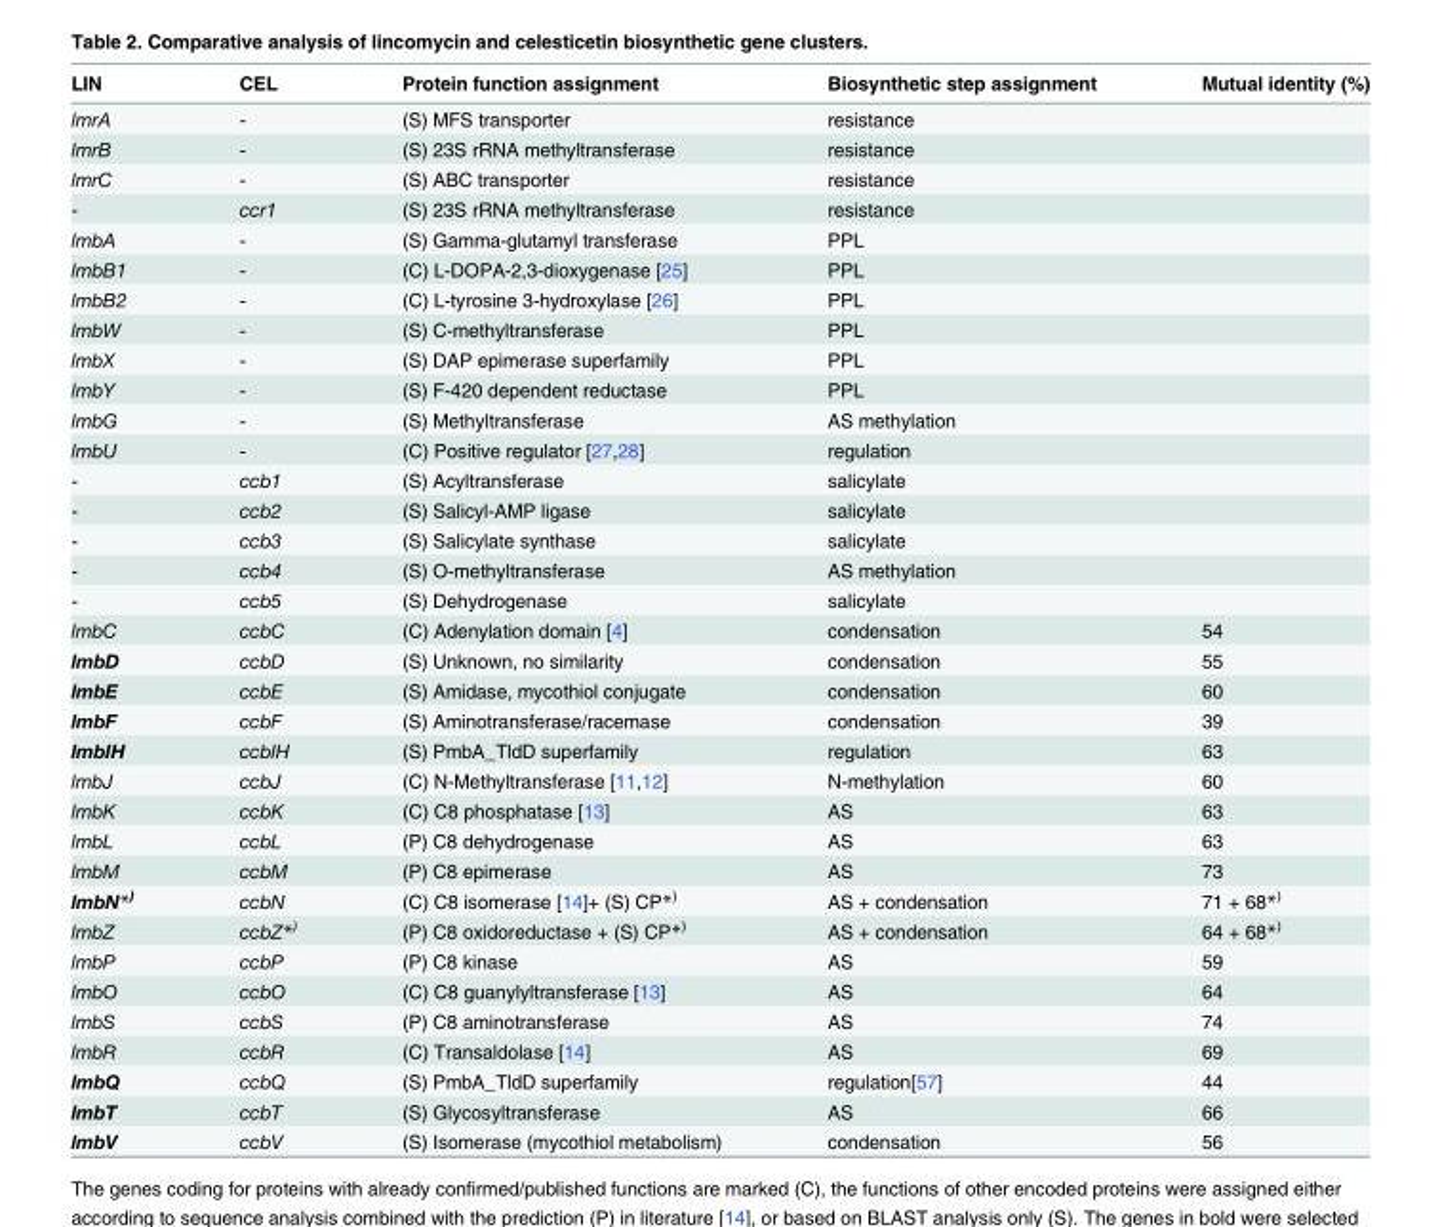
<table><thead><tr><td>LIN</td><td>CEL</td><td>Protein function assignment</td><td>Biosynthetic step assignment</td><td>Mutual identity (%)</td></tr></thead><tbody><tr><td>lmrA</td><td>-</td><td>(S) MFS transporter</td><td>resistance</td><td></td></tr><tr><td>lmrB</td><td>-</td><td>(S) 23S rRNA methyltransferase</td><td>resistance</td><td></td></tr><tr><td>lmrC</td><td>-</td><td>(S) ABC transporter</td><td>resistance</td><td></td></tr><tr><td>-</td><td>ccr1</td><td>(S) 23S rRNA methyltransferase</td><td>resistance</td><td></td></tr><tr><td>lmbA</td><td>-</td><td>(S) Gamma-glutamyl transferase</td><td>PPL</td><td></td></tr><tr><td>lmbB1</td><td>-</td><td>(C) L-DOPA-2,3-dioxygenase [25]</td><td>PPL</td><td></td></tr><tr><td>lmbB2</td><td>-</td><td>(C) L-tyrosine 3-hydroxylase [26]</td><td>PPL</td><td></td></tr><tr><td>lmbW</td><td>-</td><td>(S) C-methyltransferase</td><td>PPL</td><td></td></tr><tr><td>lmbX</td><td>-</td><td>(S) DAP epimerase superfamily</td><td>PPL</td><td></td></tr><tr><td>lmbY</td><td>-</td><td>(S) F-420 dependent reductase</td><td>PPL</td><td></td></tr><tr><td>lmbG</td><td>-</td><td>(S) Methyltransferase</td><td>AS methylation</td><td></td></tr><tr><td>lmbU</td><td>-</td><td>(C) Positive regulator [27,28]</td><td>regulation</td><td></td></tr><tr><td>-</td><td>ccb1</td><td>(S) Acyltransferase</td><td>salicylate</td><td></td></tr><tr><td>-</td><td>ccb2</td><td>(S) Salicyl-AMP ligase</td><td>salicylate</td><td></td></tr><tr><td>-</td><td>ccb3</td><td>(S) Salicylate synthase</td><td>salicylate</td><td></td></tr><tr><td>-</td><td>ccb4</td><td>(S) O-methyltransferase</td><td>AS methylation</td><td></td></tr><tr><td>-</td><td>ccb5</td><td>(S) Dehydrogenase</td><td>salicylate</td><td></td></tr><tr><td>lmbC</td><td>ccbC</td><td>(C) Adenylation domain [4]</td><td>condensation</td><td>54</td></tr><tr><td>lmbD</td><td>ccbD</td><td>(S) Unknown, no similarity</td><td>condensation</td><td>55</td></tr><tr><td>lmbE</td><td>ccbE</td><td>(S) Amidase, mycothiol conjugate</td><td>condensation</td><td>60</td></tr><tr><td>lmbF</td><td>ccbF</td><td>(S) Aminotransferase/racemase</td><td>condensation</td><td>39</td></tr><tr><td>lmbIH</td><td>ccbIH</td><td>(S) PmbA_TldD superfamily</td><td>regulation</td><td>63</td></tr><tr><td>lmbJ</td><td>ccbJ</td><td>(C) N-Methyltransferase [11,12]</td><td>N-methylation</td><td>60</td></tr><tr><td>lmbK</td><td>ccbK</td><td>(C) C8 phosphatase [13]</td><td>AS</td><td>63</td></tr><tr><td>lmbL</td><td>ccbL</td><td>(P) C8 dehydrogenase</td><td>AS</td><td>63</td></tr><tr><td>lmbM</td><td>ccbM</td><td>(P) C8 epimerase</td><td>AS</td><td>73</td></tr><tr><td>lmbN*<sup>)</sup></td><td>ccbN</td><td>(C) C8 isomerase [14]+ (S) CP*<sup>)</sup></td><td>AS + condensation</td><td>71 + 68*<sup>)</sup></td></tr><tr><td>lmbZ</td><td>ccbZ*<sup>)</sup></td><td>(P) C8 oxidoreductase + (S) CP*<sup>)</sup></td><td>AS + condensation</td><td>64 + 68*<sup>)</sup></td></tr><tr><td>lmbP</td><td>ccbP</td><td>(P) C8 kinase</td><td>AS</td><td>59</td></tr><tr><td>lmbO</td><td>ccbO</td><td>(C) C8 guanylyltransferase [13]</td><td>AS</td><td>64</td></tr><tr><td>lmbS</td><td>ccbS</td><td>(P) C8 aminotransferase</td><td>AS</td><td>74</td></tr><tr><td>lmbR</td><td>ccbR</td><td>(C) Transaldolase [14]</td><td>AS</td><td>69</td></tr><tr><td>lmbQ</td><td>ccbQ</td><td>(S) PmbA_TldD superfamily</td><td>regulation[57]</td><td>44</td></tr><tr><td>lmbT</td><td>ccbT</td><td>(S) Glycosyltransferase</td><td>AS</td><td>66</td></tr><tr><td>lmbV</td><td>ccbV</td><td>(S) Isomerase (mycothiol metabolism)</td><td>condensation</td><td>56</td></tr></tbody></table>